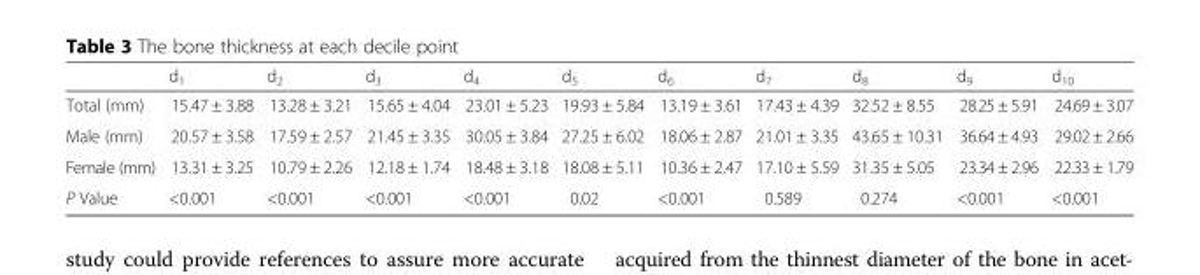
<table><thead><tr><td></td><td>d<sub>1</sub></td><td>d<sub>2</sub></td><td>d<sub>3</sub></td><td>d<sub>4</sub></td><td>d<sub>5</sub></td><td>d<sub>6</sub></td><td>d<sub>7</sub></td><td>d<sub>8</sub></td><td>d<sub>9</sub></td><td>d<sub>10</sub></td></tr></thead><tbody><tr><td>Total (mm)</td><td>15.47 ± 3.88</td><td>13.28 ± 3.21</td><td>15.65 ± 4.04</td><td>23.01 ± 5.23</td><td>19.93 ± 5.84</td><td>13.19 ± 3.61</td><td>17.43 ± 4.39</td><td>32.52 ± 8.55</td><td>28.25 ± 5.91</td><td>24.69 ± 3.07</td></tr><tr><td>Male (mm)</td><td>20.57 ± 3.58</td><td>17.59 ± 2.57</td><td>21.45 ± 3.35</td><td>30.05 ± 3.84</td><td>27.25 ± 6.02</td><td>18.06 ± 2.87</td><td>21.01 ± 3.35</td><td>43.65 ± 10.31</td><td>36.64 ± 4.93</td><td>29.02 ± 2.66</td></tr><tr><td>Female (mm)</td><td>13.31 ± 3.25</td><td>10.79 ± 2.26</td><td>12.18 ± 1.74</td><td>18.48 ± 3.18</td><td>18.08 ± 5.11</td><td>10.36 ± 2.47</td><td>17.10 ± 5.59</td><td>31.35 ± 5.05</td><td>23.34 ± 2.96</td><td>22.33 ± 1.79</td></tr><tr><td>P Value</td><td>&lt;0.001</td><td>&lt;0.001</td><td>&lt;0.001</td><td>&lt;0.001</td><td>0.02</td><td>&lt;0.001</td><td>0.589</td><td>0.274</td><td>&lt;0.001</td><td>&lt;0.001</td></tr></tbody></table>